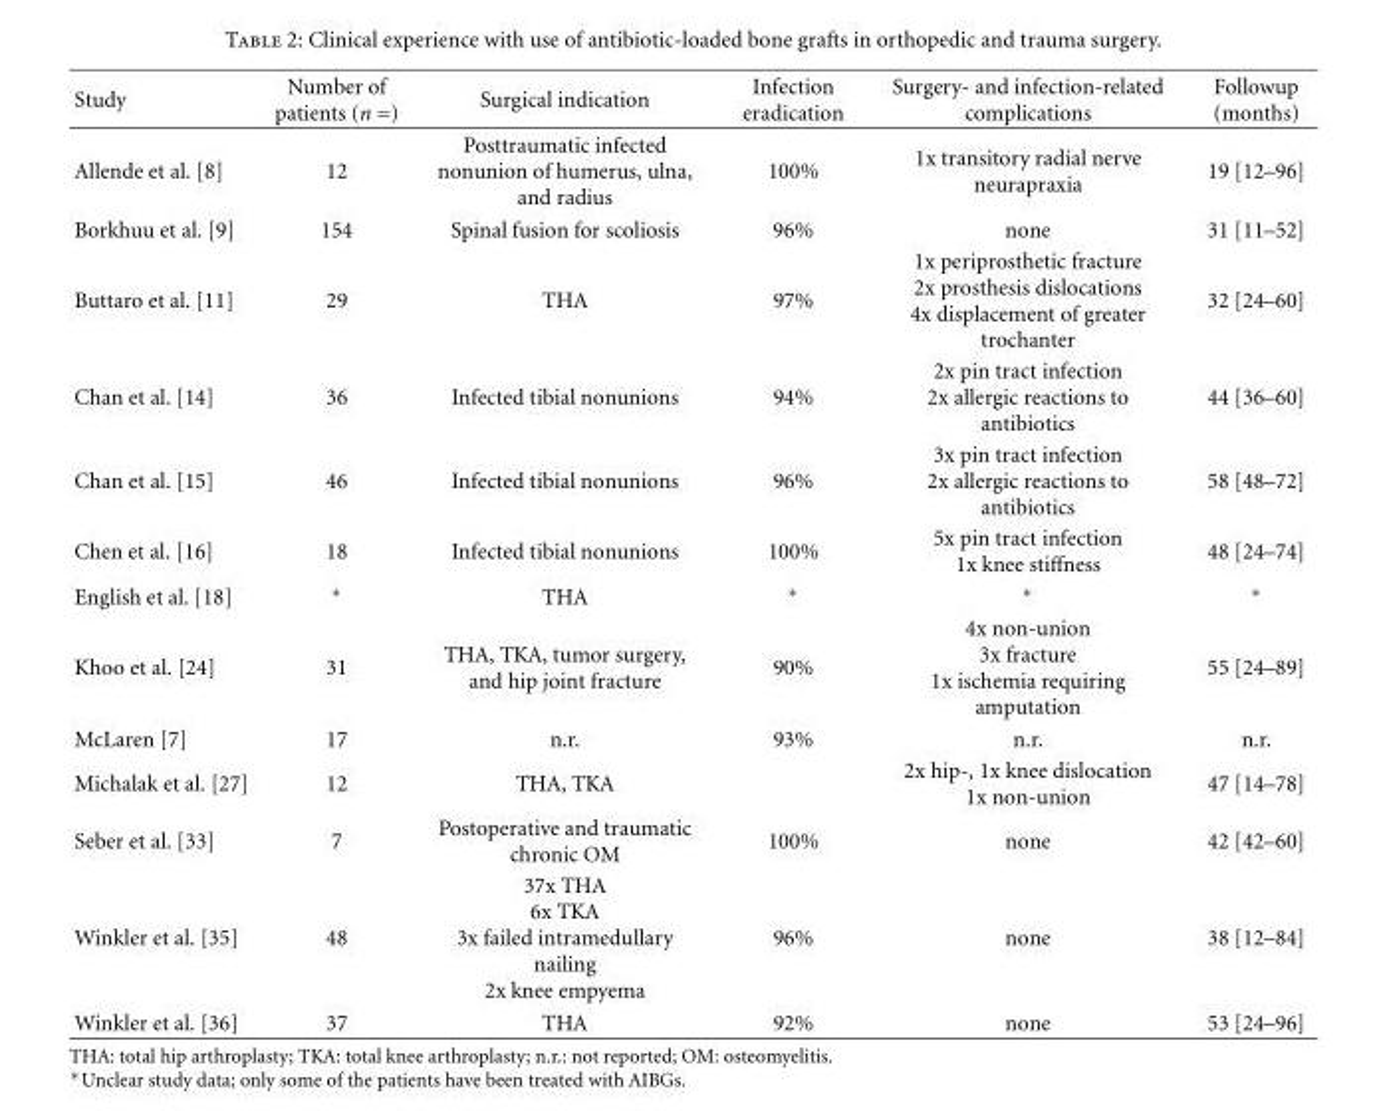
<table><thead><tr><td>Study</td><td>Number of patients (n =)</td><td>Surgical indication</td><td>Infection eradication</td><td>Surgery- and infection-related complications</td><td>Followup (months)</td></tr></thead><tbody><tr><td>Allende et al. [8]</td><td>12</td><td>Posttraumatic infected nonunion of humerus, ulna, and radius</td><td>100%</td><td>1x transitory radial nerve neurapraxia</td><td>19 [12–96]</td></tr><tr><td>Borkhuu et al. [9]</td><td>154</td><td>Spinal fusion for scoliosis</td><td>96%</td><td>none</td><td>31 [11–52]</td></tr><tr><td>Buttaro et al. [11]</td><td>29</td><td>THA</td><td>97%</td><td>1x periprosthetic fracture 2x prosthesis dislocations 4x displacement of greater trochanter</td><td>32 [24–60]</td></tr><tr><td>Chan et al. [14]</td><td>36</td><td>Infected tibial nonunions</td><td>94%</td><td>2x pin tract infection 2x allergic reactions to antibiotics</td><td>44 [36–60]</td></tr><tr><td>Chan et al. [15]</td><td>46</td><td>Infected tibial nonunions</td><td>96%</td><td>3x pin tract infection 2x allergic reactions to antibiotics</td><td>58 [48–72]</td></tr><tr><td>Chen et al. [16]</td><td>18</td><td>Infected tibial nonunions</td><td>100%</td><td>5x pin tract infection 1x knee stiffness</td><td>48 [24–74]</td></tr><tr><td>English et al. [18]</td><td>∗</td><td>THA</td><td>∗</td><td>∗</td><td>∗</td></tr><tr><td>Khoo et al. [24]</td><td>31</td><td>THA, TKA, tumor surgery, and hip joint fracture</td><td>90%</td><td>4x non-union 3x fracture 1x ischemia requiring amputation</td><td>55 [24–89]</td></tr><tr><td>McLaren [7]</td><td>17</td><td>n.r.</td><td>93%</td><td>n.r.</td><td>n.r.</td></tr><tr><td>Michalak et al. [27]</td><td>12</td><td>THA, TKA</td><td></td><td>2x hip-, 1x knee dislocation 1x non-union</td><td>47 [14–78]</td></tr><tr><td>Seber et al. [33]</td><td>7</td><td>Postoperative and traumatic chronic OM</td><td>100%</td><td>none</td><td>42 [42–60]</td></tr><tr><td>Winkler et al. [35]</td><td>48</td><td>37x THA 6x TKA 3x failed intramedullary nailing 2x knee empyema</td><td>96%</td><td>none</td><td>38 [12–84]</td></tr><tr><td>Winkler et al. [36]</td><td>37</td><td>THA</td><td>92%</td><td>none</td><td>53 [24–96]</td></tr></tbody></table>